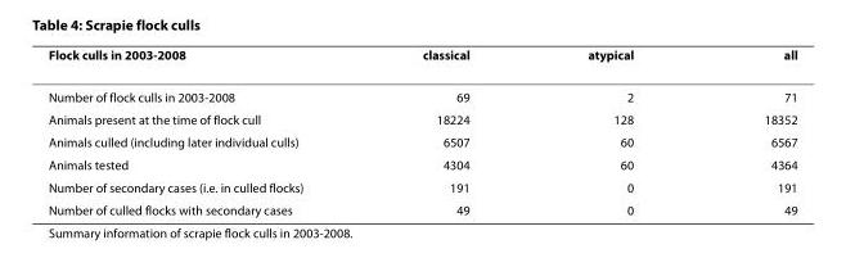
<table><thead><tr><td>Flock culls in 2003-2008</td><td>classical</td><td>atypical</td><td>all</td></tr></thead><tbody><tr><td>Number of flock culls in 2003-2008</td><td>69</td><td>2</td><td>71</td></tr><tr><td>Animals present at the time of flock cull</td><td>18224</td><td>128</td><td>18352</td></tr><tr><td>Animals culled (including later individual culls)</td><td>6507</td><td>60</td><td>6567</td></tr><tr><td>Animals tested</td><td>4304</td><td>60</td><td>4364</td></tr><tr><td>Number of secondary cases (i.e. in culled flocks)</td><td>191</td><td>0</td><td>191</td></tr><tr><td>Number of culled flocks with secondary cases</td><td>49</td><td>0</td><td>49</td></tr></tbody></table>